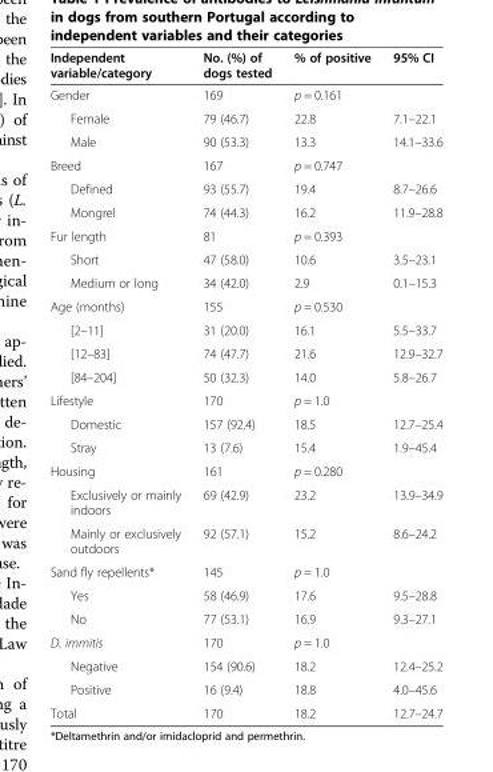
<table><thead><tr><td>Independent variable/category</td><td>No. (%) of dogs tested</td><td>% of positive</td><td>95% CI</td></tr></thead><tbody><tr><td>Gender</td><td>169</td><td>p = 0.161</td><td></td></tr><tr><td>Female</td><td>79 (46.7)</td><td>22.8</td><td>7.1–22.1</td></tr><tr><td>Male</td><td>90 (53.3)</td><td>13.3</td><td>14.1–33.6</td></tr><tr><td>Breed</td><td>167</td><td>p = 0.747</td><td></td></tr><tr><td>Defined</td><td>93 (55.7)</td><td>19.4</td><td>8.7–26.6</td></tr><tr><td>Mongrel</td><td>74 (44.3)</td><td>16.2</td><td>11.9–28.8</td></tr><tr><td>Fur length</td><td>81</td><td>p = 0.393</td><td></td></tr><tr><td>Short</td><td>47 (58.0)</td><td>10.6</td><td>3.5–23.1</td></tr><tr><td>Medium or long</td><td>34 (42.0)</td><td>2.9</td><td>0.1–15.3</td></tr><tr><td>Age (months)</td><td>155</td><td>p = 0.530</td><td></td></tr><tr><td>[2–11]</td><td>31 (20.0)</td><td>16.1</td><td>5.5–33.7</td></tr><tr><td>[12–83]</td><td>74 (47.7)</td><td>21.6</td><td>12.9–32.7</td></tr><tr><td>[84–204]</td><td>50 (32.3)</td><td>14.0</td><td>5.8–26.7</td></tr><tr><td>Lifestyle</td><td>170</td><td>p = 1.0</td><td></td></tr><tr><td>Domestic</td><td>157 (92.4)</td><td>18.5</td><td>12.7–25.4</td></tr><tr><td>Stray</td><td>13 (7.6)</td><td>15.4</td><td>1.9–45.4</td></tr><tr><td>Housing</td><td>161</td><td>p = 0.280</td><td></td></tr><tr><td>Exclusively or mainly indoors</td><td>69 (42.9)</td><td>23.2</td><td>13.9–34.9</td></tr><tr><td>Mainly or exclusively outdoors</td><td>92 (57.1)</td><td>15.2</td><td>8.6–24.2</td></tr><tr><td>Sand fly repellents*</td><td>145</td><td>p = 1.0</td><td></td></tr><tr><td>Yes</td><td>58 (46.9)</td><td>17.6</td><td>9.5–28.8</td></tr><tr><td>No</td><td>77 (53.1)</td><td>16.9</td><td>9.3–27.1</td></tr><tr><td>D. immitis</td><td>170</td><td>p = 1.0</td><td></td></tr><tr><td>Negative</td><td>154 (90.6)</td><td>18.2</td><td>12.4–25.2</td></tr><tr><td>Positive</td><td>16 (9.4)</td><td>18.8</td><td>4.0–45.6</td></tr><tr><td>Total</td><td>170</td><td>18.2</td><td>12.7–24.7</td></tr></tbody></table>